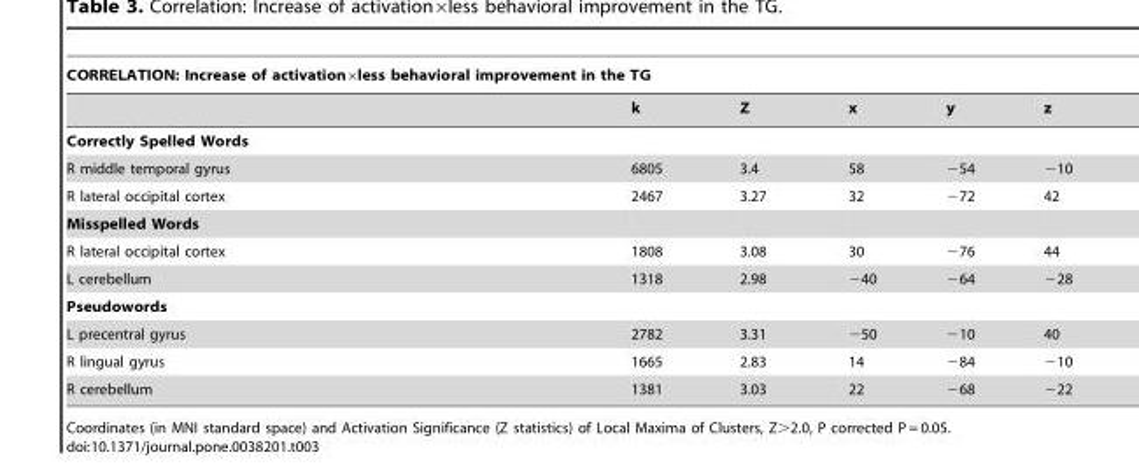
<table><thead><tr><td colspan="6">CORRELATION: Increase of activation×less behavioral improvement in the TG</td></tr><tr><td></td><td>k</td><td>Z</td><td>x</td><td>y</td><td>z</td></tr></thead><tbody><tr><td colspan="6">Correctly Spelled Words</td></tr><tr><td>R middle temporal gyrus</td><td>6805</td><td>3.4</td><td>58</td><td>−54</td><td>−10</td></tr><tr><td>R lateral occipital cortex</td><td>2467</td><td>3.27</td><td>32</td><td>−72</td><td>42</td></tr><tr><td colspan="6">Misspelled Words</td></tr><tr><td>R lateral occipital cortex</td><td>1808</td><td>3.08</td><td>30</td><td>−76</td><td>44</td></tr><tr><td>L cerebellum</td><td>1318</td><td>2.98</td><td>−40</td><td>−64</td><td>−28</td></tr><tr><td colspan="6">Pseudowords</td></tr><tr><td>L precentral gyrus</td><td>2782</td><td>3.31</td><td>−50</td><td>−10</td><td>40</td></tr><tr><td>R lingual gyrus</td><td>1665</td><td>2.83</td><td>14</td><td>−84</td><td>−10</td></tr><tr><td>R cerebellum</td><td>1381</td><td>3.03</td><td>22</td><td>−68</td><td>−22</td></tr></tbody></table>